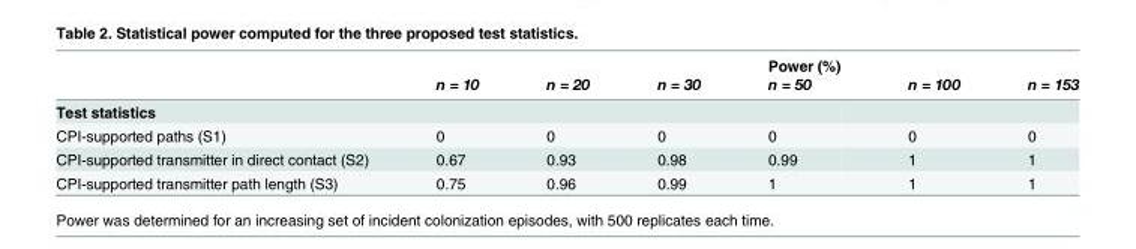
<table><thead><tr><td rowspan="2"></td><td rowspan="2">n = 10</td><td rowspan="2">n = 20</td><td rowspan="2">n = 30</td><td rowspan="2">Power (%) n = 50</td><td rowspan="2">n = 100</td><td rowspan="2">n = 153</td></tr><tr></tr></thead><tbody><tr><td colspan="7">Test statistics</td></tr><tr><td>CPI-supported paths (S1)</td><td>0</td><td>0</td><td>0</td><td>0</td><td>0</td><td>0</td></tr><tr><td>CPI-supported transmitter in direct contact (S2)</td><td>0.67</td><td>0.93</td><td>0.98</td><td>0.99</td><td>1</td><td>1</td></tr><tr><td>CPI-supported transmitter path length (S3)</td><td>0.75</td><td>0.96</td><td>0.99</td><td>1</td><td>1</td><td>1</td></tr></tbody></table>